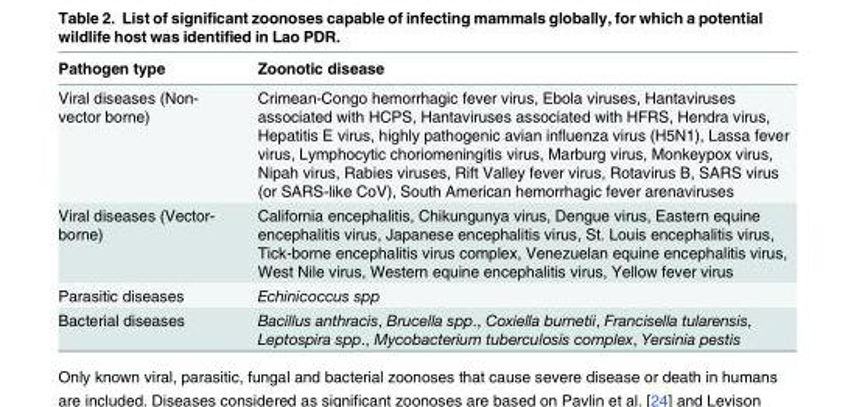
<table><thead><tr><td>Pathogen type</td><td>Zoonotic disease</td></tr></thead><tbody><tr><td>Viral diseases (Non- vector borne)</td><td>Crimean-Congo hemorrhagic fever virus, Ebola viruses, Hantaviruses associated with HCPS, Hantaviruses associated with HFRS, Hendra virus, Hepatitis E virus, highly pathogenic avian influenza virus (H5N1), Lassa fever virus, Lymphocytic choriomeningitis virus, Marburg virus, Monkeypox virus, Nipah virus, Rabies viruses, Rift Valley fever virus, Rotavirus B, SARS virus (or SARS-like CoV), South American hemorrhagic fever arenaviruses</td></tr><tr><td>Viral diseases (Vector- borne)</td><td>California encephalitis, Chikungunya virus, Dengue virus, Eastern equine encephalitis virus, Japanese encephalitis virus, St. Louis encephalitis virus, Tick-borne encephalitis virus complex, Venezuelan equine encephalitis virus, West Nile virus, Western equine encephalitis virus, Yellow fever virus</td></tr><tr><td>Parasitic diseases</td><td>Echinicoccus spp</td></tr><tr><td>Bacterial diseases</td><td>Bacillus anthracis, Brucella spp., Coxiella burnetii, Francisella tularensis, Leptospira spp., Mycobacterium tuberculosis complex, Yersinia pestis</td></tr></tbody></table>